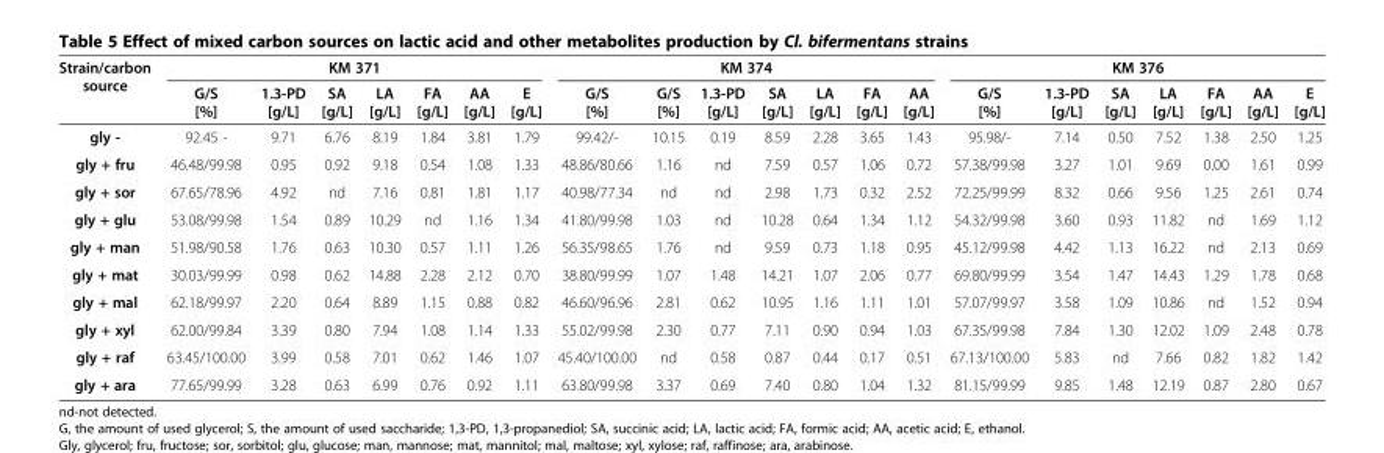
<table><thead><tr><td rowspan="2">Strain/carbon source</td><td colspan="7">KM 371</td><td colspan="7">KM 374</td><td colspan="7">KM 376</td></tr><tr><td>G/S [%]</td><td>1.3-PD [g/L]</td><td>SA [g/L]</td><td>LA [g/L]</td><td>FA [g/L]</td><td>AA [g/L]</td><td>E [g/L]</td><td>G/S [%]</td><td>G/S [%]</td><td>1.3-PD [g/L]</td><td>SA [g/L]</td><td>LA [g/L]</td><td>FA [g/L]</td><td>AA [g/L]</td><td>G/S [%]</td><td>1.3-PD [g/L]</td><td>SA [g/L]</td><td>LA [g/L]</td><td>FA [g/L]</td><td>AA [g/L]</td><td>E [g/L]</td></tr></thead><tbody><tr><td>gly -</td><td>92.45 -</td><td>9.71</td><td>6.76</td><td>8.19</td><td>1.84</td><td>3.81</td><td>1.79</td><td>99.42/-</td><td>10.15</td><td>0.19</td><td>8.59</td><td>2.28</td><td>3.65</td><td>1.43</td><td>95.98/-</td><td>7.14</td><td>0.50</td><td>7.52</td><td>1.38</td><td>2.50</td><td>1.25</td></tr><tr><td>gly + fru</td><td>46.48/99.98</td><td>0.95</td><td>0.92</td><td>9.18</td><td>0.54</td><td>1.08</td><td>1.33</td><td>48.86/80.66</td><td>1.16</td><td>nd</td><td>7.59</td><td>0.57</td><td>1.06</td><td>0.72</td><td>57.38/99.98</td><td>3.27</td><td>1.01</td><td>9.69</td><td>0.00</td><td>1.61</td><td>0.99</td></tr><tr><td>gly + sor</td><td>67.65/78.96</td><td>4.92</td><td>nd</td><td>7.16</td><td>0.81</td><td>1.81</td><td>1.17</td><td>40.98/77.34</td><td>nd</td><td>nd</td><td>2.98</td><td>1.73</td><td>0.32</td><td>2.52</td><td>72.25/99.99</td><td>8.32</td><td>0.66</td><td>9.56</td><td>1.25</td><td>2.61</td><td>0.74</td></tr><tr><td>gly + glu</td><td>53.08/99.98</td><td>1.54</td><td>0.89</td><td>10.29</td><td>nd</td><td>1.16</td><td>1.34</td><td>41.80/99.98</td><td>1.03</td><td>nd</td><td>10.28</td><td>0.64</td><td>1.34</td><td>1.12</td><td>54.32/99.98</td><td>3.60</td><td>0.93</td><td>11.82</td><td>nd</td><td>1.69</td><td>1.12</td></tr><tr><td>gly + man</td><td>51.98/90.58</td><td>1.76</td><td>0.63</td><td>10.30</td><td>0.57</td><td>1.11</td><td>1.26</td><td>56.35/98.65</td><td>1.76</td><td>nd</td><td>9.59</td><td>0.73</td><td>1.18</td><td>0.95</td><td>45.12/99.98</td><td>4.42</td><td>1.13</td><td>16.22</td><td>nd</td><td>2.13</td><td>0.69</td></tr><tr><td>gly + mat</td><td>30.03/99.99</td><td>0.98</td><td>0.62</td><td>14.88</td><td>2.28</td><td>2.12</td><td>0.70</td><td>38.80/99.99</td><td>1.07</td><td>1.48</td><td>14.21</td><td>1.07</td><td>2.06</td><td>0.77</td><td>69.80/99.99</td><td>3.54</td><td>1.47</td><td>14.43</td><td>1.29</td><td>1.78</td><td>0.68</td></tr><tr><td>gly + mal</td><td>62.18/99.97</td><td>2.20</td><td>0.64</td><td>8.89</td><td>1.15</td><td>0.88</td><td>0.82</td><td>46.60/96.96</td><td>2.81</td><td>0.62</td><td>10.95</td><td>1.16</td><td>1.11</td><td>1.01</td><td>57.07/99.97</td><td>3.58</td><td>1.09</td><td>10.86</td><td>nd</td><td>1.52</td><td>0.94</td></tr><tr><td>gly + xyl</td><td>62.00/99.84</td><td>3.39</td><td>0.80</td><td>7.94</td><td>1.08</td><td>1.14</td><td>1.33</td><td>55.02/99.98</td><td>2.30</td><td>0.77</td><td>7.11</td><td>0.90</td><td>0.94</td><td>1.03</td><td>67.35/99.98</td><td>7.84</td><td>1.30</td><td>12.02</td><td>1.09</td><td>2.48</td><td>0.78</td></tr><tr><td>gly + raf</td><td>63.45/100.00</td><td>3.99</td><td>0.58</td><td>7.01</td><td>0.62</td><td>1.46</td><td>1.07</td><td>45.40/100.00</td><td>nd</td><td>0.58</td><td>0.87</td><td>0.44</td><td>0.17</td><td>0.51</td><td>67.13/100.00</td><td>5.83</td><td>nd</td><td>7.66</td><td>0.82</td><td>1.82</td><td>1.42</td></tr><tr><td>gly + ara</td><td>77.65/99.99</td><td>3.28</td><td>0.63</td><td>6.99</td><td>0.76</td><td>0.92</td><td>1.11</td><td>63.80/99.98</td><td>3.37</td><td>0.69</td><td>7.40</td><td>0.80</td><td>1.04</td><td>1.32</td><td>81.15/99.99</td><td>9.85</td><td>1.48</td><td>12.19</td><td>0.87</td><td>2.80</td><td>0.67</td></tr></tbody></table>